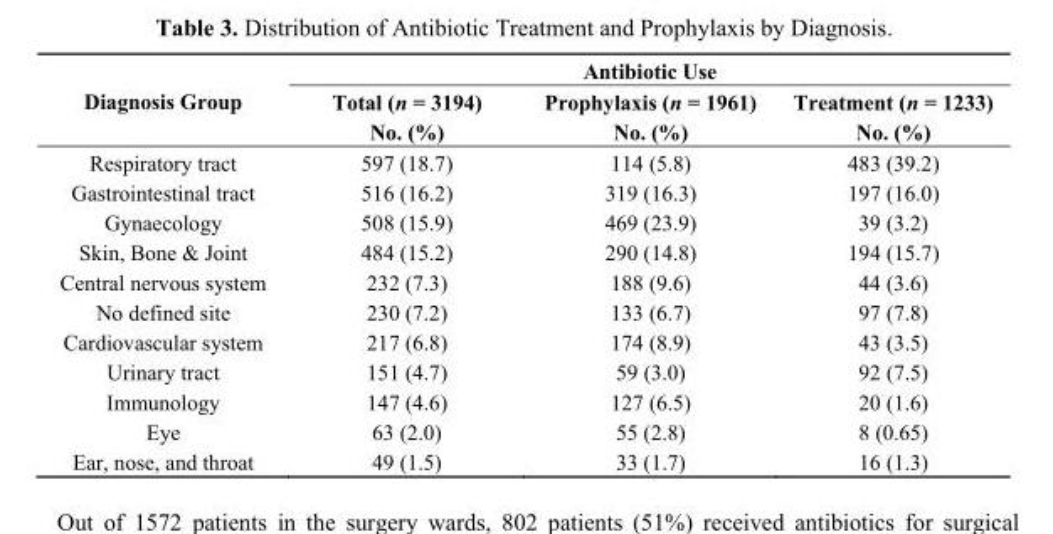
<table><thead><tr><td rowspan="2">Diagnosis Group</td><td colspan="3">Antibiotic Use</td></tr><tr><td>Total (n = 3194) No. (%)</td><td>Prophylaxis (n = 1961) No. (%)</td><td>Treatment (n = 1233) No. (%)</td></tr></thead><tbody><tr><td>Respiratory tract</td><td>597 (18.7)</td><td>114 (5.8)</td><td>483 (39.2)</td></tr><tr><td>Gastrointestinal tract</td><td>516 (16.2)</td><td>319 (16.3)</td><td>197 (16.0)</td></tr><tr><td>Gynaecology</td><td>508 (15.9)</td><td>469 (23.9)</td><td>39 (3.2)</td></tr><tr><td>Skin, Bone &amp; Joint</td><td>484 (15.2)</td><td>290 (14.8)</td><td>194 (15.7)</td></tr><tr><td>Central nervous system</td><td>232 (7.3)</td><td>188 (9.6)</td><td>44 (3.6)</td></tr><tr><td>No defined site</td><td>230 (7.2)</td><td>133 (6.7)</td><td>97 (7.8)</td></tr><tr><td>Cardiovascular system</td><td>217 (6.8)</td><td>174 (8.9)</td><td>43 (3.5)</td></tr><tr><td>Urinary tract</td><td>151 (4.7)</td><td>59 (3.0)</td><td>92 (7.5)</td></tr><tr><td>Immunology</td><td>147 (4.6)</td><td>127 (6.5)</td><td>20 (1.6)</td></tr><tr><td>Eye</td><td>63 (2.0)</td><td>55 (2.8)</td><td>8 (0.65)</td></tr><tr><td>Ear, nose, and throat</td><td>49 (1.5)</td><td>33 (1.7)</td><td>16 (1.3)</td></tr></tbody></table>